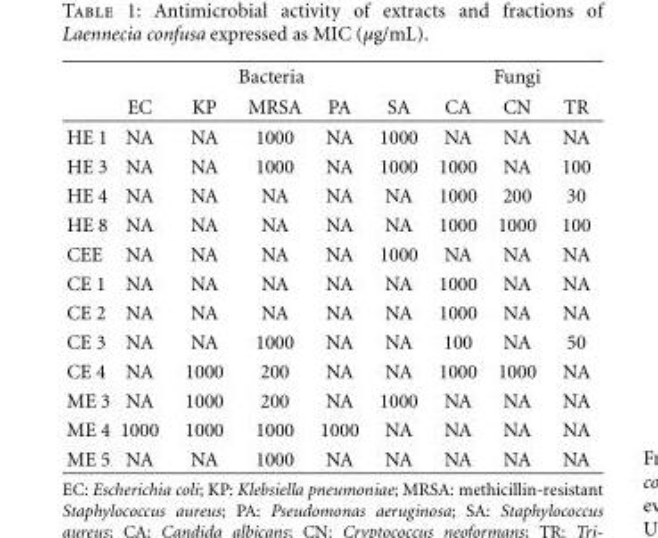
<table><thead><tr><td rowspan="2"></td><td colspan="5">Bacteria</td><td colspan="3">Fungi</td></tr><tr><td>EC</td><td>KP</td><td>MRSA</td><td>PA</td><td>SA</td><td>CA</td><td>CN</td><td>TR</td></tr></thead><tbody><tr><td>HE 1</td><td>NA</td><td>NA</td><td>1000</td><td>NA</td><td>1000</td><td>NA</td><td>NA</td><td>NA</td></tr><tr><td>HE 3</td><td>NA</td><td>NA</td><td>1000</td><td>NA</td><td>1000</td><td>1000</td><td>NA</td><td>100</td></tr><tr><td>HE 4</td><td>NA</td><td>NA</td><td>NA</td><td>NA</td><td>NA</td><td>1000</td><td>200</td><td>30</td></tr><tr><td>HE 8</td><td>NA</td><td>NA</td><td>NA</td><td>NA</td><td>NA</td><td>1000</td><td>1000</td><td>100</td></tr><tr><td>CEE</td><td>NA</td><td>NA</td><td>NA</td><td>NA</td><td>1000</td><td>NA</td><td>NA</td><td>NA</td></tr><tr><td>CE 1</td><td>NA</td><td>NA</td><td>NA</td><td>NA</td><td>NA</td><td>1000</td><td>NA</td><td>NA</td></tr><tr><td>CE 2</td><td>NA</td><td>NA</td><td>NA</td><td>NA</td><td>NA</td><td>1000</td><td>NA</td><td>NA</td></tr><tr><td>CE 3</td><td>NA</td><td>NA</td><td>1000</td><td>NA</td><td>NA</td><td>100</td><td>NA</td><td>50</td></tr><tr><td>CE 4</td><td>NA</td><td>1000</td><td>200</td><td>NA</td><td>NA</td><td>1000</td><td>1000</td><td>NA</td></tr><tr><td>ME 3</td><td>NA</td><td>1000</td><td>200</td><td>NA</td><td>1000</td><td>NA</td><td>NA</td><td>NA</td></tr><tr><td>ME 4</td><td>1000</td><td>1000</td><td>1000</td><td>1000</td><td>NA</td><td>NA</td><td>NA</td><td>NA</td></tr><tr><td>ME 5</td><td>NA</td><td>NA</td><td>1000</td><td>NA</td><td>NA</td><td>NA</td><td>NA</td><td>NA</td></tr></tbody></table>